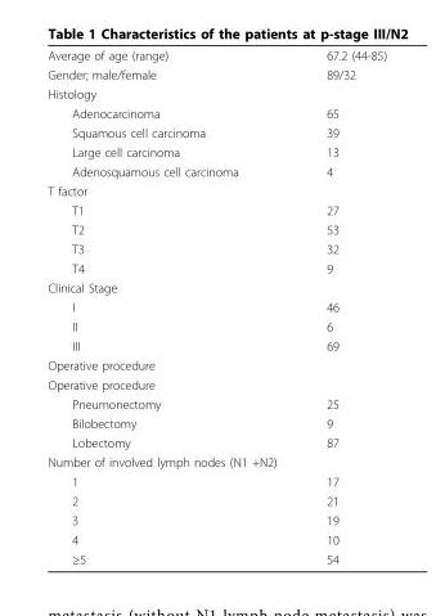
<table><tbody><tr><td>Average of age (range)</td><td>67.2 (44-85)</td></tr><tr><td>Gender; male/female</td><td>89/32</td></tr><tr><td colspan="2">Histology</td></tr><tr><td>Adenocarcinoma</td><td>65</td></tr><tr><td>Squamous cell carcinoma</td><td>39</td></tr><tr><td>Large cell carcinoma</td><td>13</td></tr><tr><td>Adenosquamous cell carcinoma</td><td>4</td></tr><tr><td colspan="2">T factor</td></tr><tr><td>T1</td><td>27</td></tr><tr><td>T2</td><td>53</td></tr><tr><td>T3</td><td>32</td></tr><tr><td>T4</td><td>9</td></tr><tr><td colspan="2">Clinical Stage</td></tr><tr><td>I</td><td>46</td></tr><tr><td>II</td><td>6</td></tr><tr><td>III</td><td>69</td></tr><tr><td colspan="2">Operative procedure</td></tr><tr><td colspan="2">Operative procedure</td></tr><tr><td>Pneumonectomy</td><td>25</td></tr><tr><td>Bilobectomy</td><td>9</td></tr><tr><td>Lobectomy</td><td>87</td></tr><tr><td colspan="2">Number of involved lymph nodes (N1 +N2)</td></tr><tr><td>1</td><td>17</td></tr><tr><td>2</td><td>21</td></tr><tr><td>3</td><td>19</td></tr><tr><td>4</td><td>10</td></tr><tr><td>≥5</td><td>54</td></tr></tbody></table>